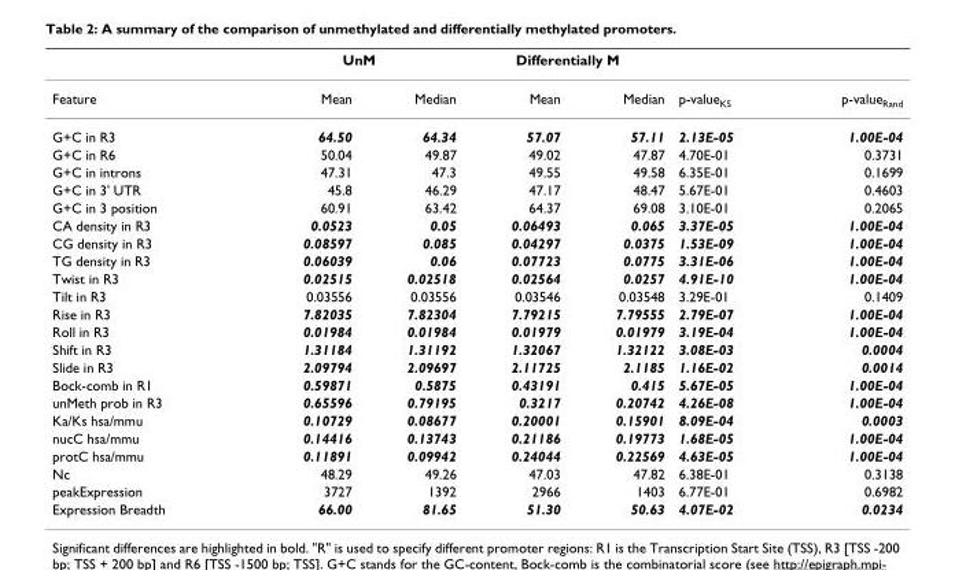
<table><thead><tr><td rowspan="2">Feature</td><td colspan="2">UnM</td><td colspan="2">Differentially M</td><td rowspan="2">p-value<sub>KS</sub></td><td rowspan="2">p-value<sub>Rand</sub></td></tr><tr><td>Mean</td><td>Median</td><td>Mean</td><td>Median</td></tr></thead><tbody><tr><td>G+C in R3</td><td>64.50</td><td>64.34</td><td>57.07</td><td>57.11</td><td>2.13E-05</td><td>1.00E-04</td></tr><tr><td>G+C in R6</td><td>50.04</td><td>49.87</td><td>49.02</td><td>47.87</td><td>4.70E-01</td><td>0.3731</td></tr><tr><td>G+C in introns</td><td>47.31</td><td>47.3</td><td>49.55</td><td>49.58</td><td>6.35E-01</td><td>0.1699</td></tr><tr><td>G+C in 3&#x27; UTR</td><td>45.8</td><td>46.29</td><td>47.17</td><td>48.47</td><td>5.67E-01</td><td>0.4603</td></tr><tr><td>G+C in 3 position</td><td>60.91</td><td>63.42</td><td>64.37</td><td>69.08</td><td>3.10E-01</td><td>0.2065</td></tr><tr><td>CA density in R3</td><td>0.0523</td><td>0.05</td><td>0.06493</td><td>0.065</td><td>3.37E-05</td><td>1.00E-04</td></tr><tr><td>CG density in R3</td><td>0.08597</td><td>0.085</td><td>0.04297</td><td>0.0375</td><td>1.53E-09</td><td>1.00E-04</td></tr><tr><td>TG density in R3</td><td>0.06039</td><td>0.06</td><td>0.07723</td><td>0.0775</td><td>3.31E-06</td><td>1.00E-04</td></tr><tr><td>Twist in R3</td><td>0.02515</td><td>0.02518</td><td>0.02564</td><td>0.0257</td><td>4.91E-10</td><td>1.00E-04</td></tr><tr><td>Tilt in R3</td><td>0.03556</td><td>0.03556</td><td>0.03546</td><td>0.03548</td><td>3.29E-01</td><td>0.1409</td></tr><tr><td>Rise in R3</td><td>7.82035</td><td>7.82304</td><td>7.79215</td><td>7.79555</td><td>2.79E-07</td><td>1.00E-04</td></tr><tr><td>Roll in R3</td><td>0.01984</td><td>0.01984</td><td>0.01979</td><td>0.01979</td><td>3.19E-04</td><td>1.00E-04</td></tr><tr><td>Shift in R3</td><td>1.31184</td><td>1.31192</td><td>1.32067</td><td>1.32122</td><td>3.08E-03</td><td>0.0004</td></tr><tr><td>Slide in R3</td><td>2.09794</td><td>2.09697</td><td>2.11725</td><td>2.1185</td><td>1.16E-02</td><td>0.0014</td></tr><tr><td>Bock-comb in R1</td><td>0.59871</td><td>0.5875</td><td>0.43191</td><td>0.415</td><td>5.67E-05</td><td>1.00E-04</td></tr><tr><td>unMeth prob in R3</td><td>0.65596</td><td>0.79195</td><td>0.3217</td><td>0.20742</td><td>4.26E-08</td><td>1.00E-04</td></tr><tr><td>Ka/Ks hsa/mmu</td><td>0.10729</td><td>0.08677</td><td>0.20001</td><td>0.15901</td><td>8.09E-04</td><td>0.0003</td></tr><tr><td>nucC hsa/mmu</td><td>0.14416</td><td>0.13743</td><td>0.21186</td><td>0.19773</td><td>1.68E-05</td><td>1.00E-04</td></tr><tr><td>protC hsa/mmu</td><td>0.11891</td><td>0.09942</td><td>0.24044</td><td>0.22569</td><td>4.63E-05</td><td>1.00E-04</td></tr><tr><td>Nc</td><td>48.29</td><td>49.26</td><td>47.03</td><td>47.82</td><td>6.38E-01</td><td>0.3138</td></tr><tr><td>peakExpression</td><td>3727</td><td>1392</td><td>2966</td><td>1403</td><td>6.77E-01</td><td>0.6982</td></tr><tr><td>Expression Breadth</td><td>66.00</td><td>81.65</td><td>51.30</td><td>50.63</td><td>4.07E-02</td><td>0.0234</td></tr></tbody></table>